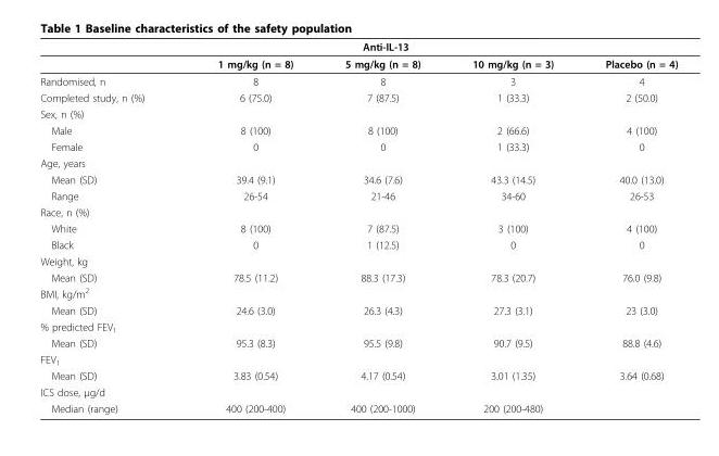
<table><thead><tr><td rowspan="2"></td><td colspan="3">Anti-IL-13</td><td rowspan="2">Placebo (n = 4)</td></tr><tr><td>1 mg/kg (n = 8)</td><td>5 mg/kg (n = 8)</td><td>10 mg/kg (n = 3)</td></tr></thead><tbody><tr><td>Randomised, n</td><td>8</td><td>8</td><td>3</td><td>4</td></tr><tr><td>Completed study, n (%)</td><td>6 (75.0)</td><td>7 (87.5)</td><td>1 (33.3)</td><td>2 (50.0)</td></tr><tr><td colspan="5">Sex, n (%)</td></tr><tr><td>Male</td><td>8 (100)</td><td>8 (100)</td><td>2 (66.6)</td><td>4 (100)</td></tr><tr><td>Female</td><td>0</td><td>0</td><td>1 (33.3)</td><td>0</td></tr><tr><td colspan="5">Age, years</td></tr><tr><td>Mean (SD)</td><td>39.4 (9.1)</td><td>34.6 (7.6)</td><td>43.3 (14.5)</td><td>40.0 (13.0)</td></tr><tr><td>Range</td><td>26-54</td><td>21-46</td><td>34-60</td><td>26-53</td></tr><tr><td colspan="5">Race, n (%)</td></tr><tr><td>White</td><td>8 (100)</td><td>7 (87.5)</td><td>3 (100)</td><td>4 (100)</td></tr><tr><td>Black</td><td>0</td><td>1 (12.5)</td><td>0</td><td>0</td></tr><tr><td colspan="5">Weight, kg</td></tr><tr><td>Mean (SD)</td><td>78.5 (11.2)</td><td>88.3 (17.3)</td><td>78.3 (20.7)</td><td>76.0 (9.8)</td></tr><tr><td colspan="5">BMI, kg/m<sup>2</sup></td></tr><tr><td>Mean (SD)</td><td>24.6 (3.0)</td><td>26.3 (4.3)</td><td>27.3 (3.1)</td><td>23 (3.0)</td></tr><tr><td colspan="5">% predicted FEV<sub>1</sub></td></tr><tr><td>Mean (SD)</td><td>95.3 (8.3)</td><td>95.5 (9.8)</td><td>90.7 (9.5)</td><td>88.8 (4.6)</td></tr><tr><td colspan="5">FEV<sub>1</sub></td></tr><tr><td>Mean (SD)</td><td>3.83 (0.54)</td><td>4.17 (0.54)</td><td>3.01 (1.35)</td><td>3.64 (0.68)</td></tr><tr><td colspan="5">ICS dose, μg/d</td></tr><tr><td>Median (range)</td><td>400 (200-400)</td><td>400 (200-1000)</td><td>200 (200-480)</td><td></td></tr></tbody></table>